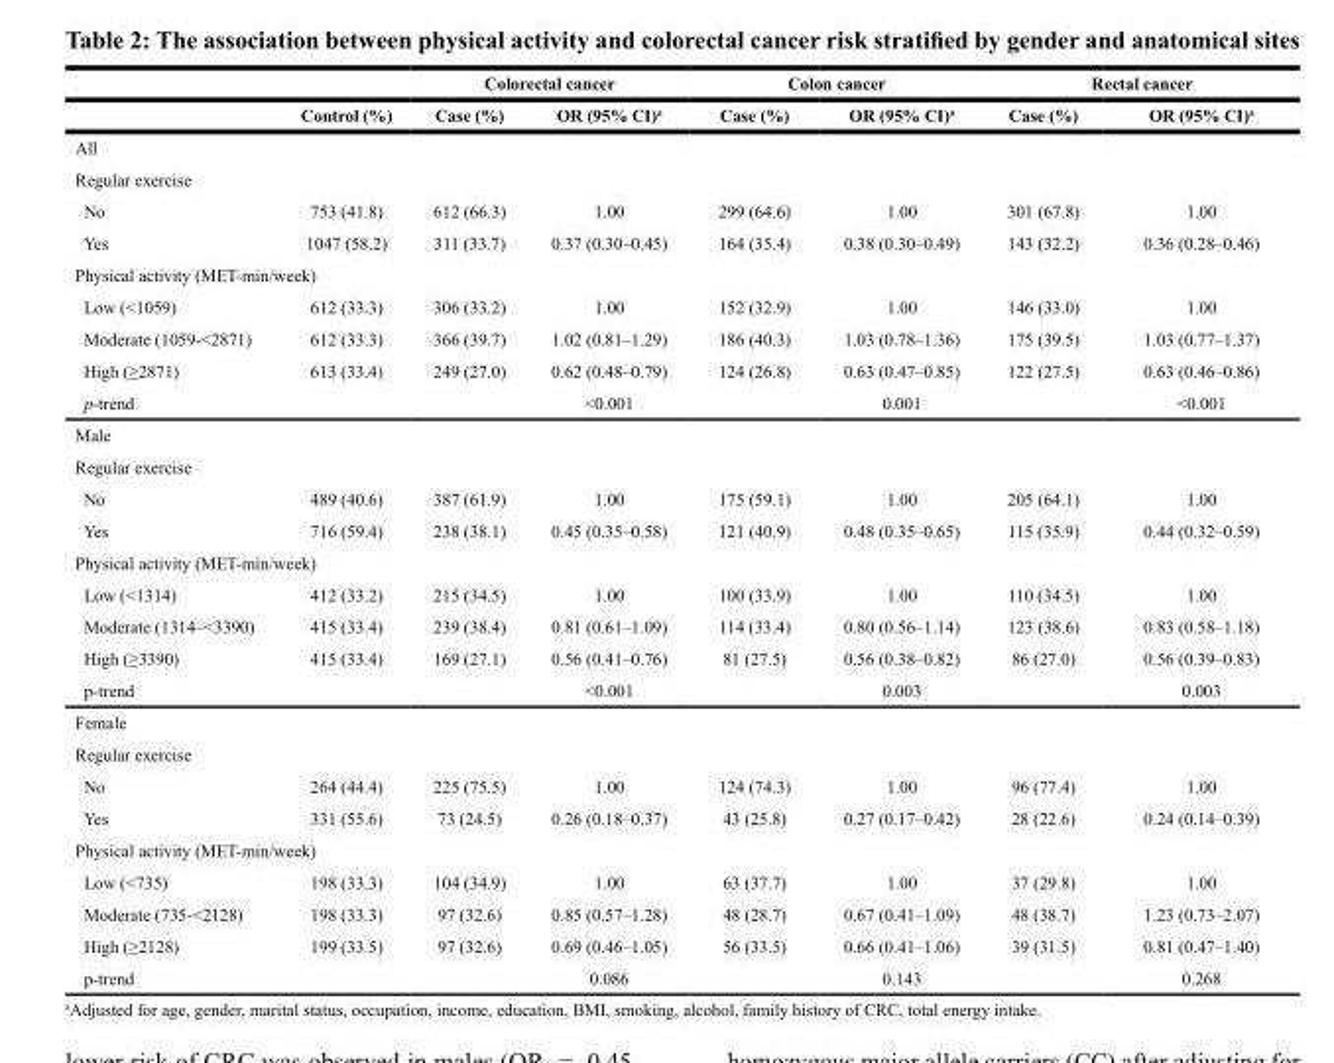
<table><thead><tr><td rowspan="2"></td><td rowspan="2">Control (%)</td><td colspan="2">Colorectal cancer</td><td colspan="2">Colon cancer</td><td colspan="2">Rectal cancer</td></tr><tr><td>Case (%)</td><td>OR (95% CI)<sup>a</sup></td><td>Case (%)</td><td>OR (95% CI)<sup>a</sup></td><td>Case (%)</td><td>OR (95% CI)<sup>a</sup></td></tr></thead><tbody><tr><td colspan="8">All</td></tr><tr><td colspan="8">Regular exercise</td></tr><tr><td>No</td><td>753 (41.8)</td><td>612 (66.3)</td><td>1.00</td><td>299 (64.6)</td><td>1.00</td><td>301 (67.8)</td><td>1.00</td></tr><tr><td>Yes</td><td>1047 (58.2)</td><td>311 (33.7)</td><td>0.37 (0.30–0.45)</td><td>164 (35.4)</td><td>0.38 (0.30–0.49)</td><td>143 (32.2)</td><td>0.36 (0.28–0.46)</td></tr><tr><td colspan="8">Physical activity (MET-min/week)</td></tr><tr><td>Low (&lt;1059)</td><td>612 (33.3)</td><td>306 (33.2)</td><td>1.00</td><td>152 (32.9)</td><td>1.00</td><td>146 (33.0)</td><td>1.00</td></tr><tr><td>Moderate (1059-&lt;2871)</td><td>612 (33.3)</td><td>366 (39.7)</td><td>1.02 (0.81–1.29)</td><td>186 (40.3)</td><td>1.03 (0.78–1.36)</td><td>175 (39.5)</td><td>1.03 (0.77–1.37)</td></tr><tr><td>High (≥2871)</td><td>613 (33.4)</td><td>249 (27.0)</td><td>0.62 (0.48–0.79)</td><td>124 (26.8)</td><td>0.63 (0.47–0.85)</td><td>122 (27.5)</td><td>0.63 (0.46–0.86)</td></tr><tr><td>p-trend</td><td></td><td></td><td>&lt;0.001</td><td></td><td>0.001</td><td></td><td>&lt;0.001</td></tr><tr><td colspan="8">Male</td></tr><tr><td colspan="8">Regular exercise</td></tr><tr><td>No</td><td>489 (40.6)</td><td>387 (61.9)</td><td>1.00</td><td>175 (59.1)</td><td>1.00</td><td>205 (64.1)</td><td>1.00</td></tr><tr><td>Yes</td><td>716 (59.4)</td><td>238 (38.1)</td><td>0.45 (0.35–0.58)</td><td>121 (40.9)</td><td>0.48 (0.35–0.65)</td><td>115 (35.9)</td><td>0.44 (0.32–0.59)</td></tr><tr><td colspan="8">Physical activity (MET-min/week)</td></tr><tr><td>Low (&lt;1314)</td><td>412 (33.2)</td><td>215 (34.5)</td><td>1.00</td><td>100 (33.9)</td><td>1.00</td><td>110 (34.5)</td><td>1.00</td></tr><tr><td>Moderate (1314–&lt;3390)</td><td>415 (33.4)</td><td>239 (38.4)</td><td>0.81 (0.61–1.09)</td><td>114 (33.4)</td><td>0.80 (0.56–1.14)</td><td>123 (38.6)</td><td>0.83 (0.58–1.18)</td></tr><tr><td>High (≥3390)</td><td>415 (33.4)</td><td>169 (27.1)</td><td>0.56 (0.41–0.76)</td><td>81 (27.5)</td><td>0.56 (0.38–0.82)</td><td>86 (27.0)</td><td>0.56 (0.39–0.83)</td></tr><tr><td>p-trend</td><td></td><td></td><td>&lt;0.001</td><td></td><td>0.003</td><td></td><td>0.003</td></tr><tr><td colspan="8">Female</td></tr><tr><td colspan="8">Regular exercise</td></tr><tr><td>No</td><td>264 (44.4)</td><td>225 (75.5)</td><td>1.00</td><td>124 (74.3)</td><td>1.00</td><td>96 (77.4)</td><td>1.00</td></tr><tr><td>Yes</td><td>331 (55.6)</td><td>73 (24.5)</td><td>0.26 (0.18–0.37)</td><td>43 (25.8)</td><td>0.27 (0.17–0.42)</td><td>28 (22.6)</td><td>0.24 (0.14–0.39)</td></tr><tr><td colspan="8">Physical activity (MET-min/week)</td></tr><tr><td>Low (&lt;735)</td><td>198 (33.3)</td><td>104 (34.9)</td><td>1.00</td><td>63 (37.7)</td><td>1.00</td><td>37 (29.8)</td><td>1.00</td></tr><tr><td>Moderate (735-&lt;2128)</td><td>198 (33.3)</td><td>97 (32.6)</td><td>0.85 (0.57–1.28)</td><td>48 (28.7)</td><td>0.67 (0.41–1.09)</td><td>48 (38.7)</td><td>1.23 (0.73–2.07)</td></tr><tr><td>High (≥2128)</td><td>199 (33.5)</td><td>97 (32.6)</td><td>0.69 (0.46–1.05)</td><td>56 (33.5)</td><td>0.66 (0.41–1.06)</td><td>39 (31.5)</td><td>0.81 (0.47–1.40)</td></tr><tr><td>p-trend</td><td></td><td></td><td>0.086</td><td></td><td>0.143</td><td></td><td>0.268</td></tr></tbody></table>